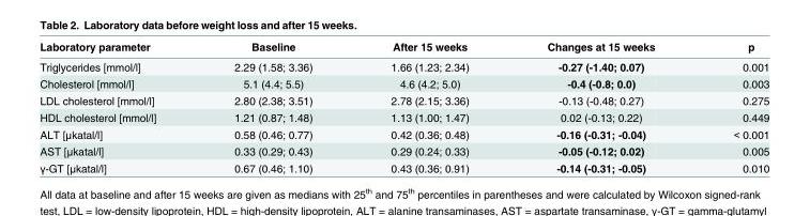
<table><thead><tr><td>Laboratory parameter</td><td>Baseline</td><td>After 15 weeks</td><td>Changes at 15 weeks</td><td>p</td></tr></thead><tbody><tr><td>Triglycerides [mmol/l]</td><td>2.29 (1.58; 3.36)</td><td>1.66 (1.23; 2.34)</td><td>-0.27 (-1.40; 0.07)</td><td>0.001</td></tr><tr><td>Cholesterol [mmol/l]</td><td>5.1 (4.4; 5.5)</td><td>4.6 (4.2; 5.0)</td><td>-0.4 (-0.8; 0.0)</td><td>0.003</td></tr><tr><td>LDL cholesterol [mmol/l]</td><td>2.80 (2.38; 3.51)</td><td>2.78 (2.15; 3.36)</td><td>-0.13 (-0.48; 0.27)</td><td>0.275</td></tr><tr><td>HDL cholesterol [mmol/l]</td><td>1.21 (0.87; 1.48)</td><td>1.13 (1.00; 1.47)</td><td>0.02 (-0.13; 0.22)</td><td>0.449</td></tr><tr><td>ALT [μkatal/l]</td><td>0.58 (0.46; 0.77)</td><td>0.42 (0.36; 0.48)</td><td>-0.16 (-0.31; -0.04)</td><td>&lt; 0.001</td></tr><tr><td>AST [μkatal/l]</td><td>0.33 (0.29; 0.43)</td><td>0.29 (0.24; 0.33)</td><td>-0.05 (-0.12; 0.02)</td><td>0.005</td></tr><tr><td>γ-GT [μkatal/l]</td><td>0.67 (0.46; 1.10)</td><td>0.43 (0.36; 0.91)</td><td>-0.14 (-0.31; -0.05)</td><td>0.010</td></tr></tbody></table>